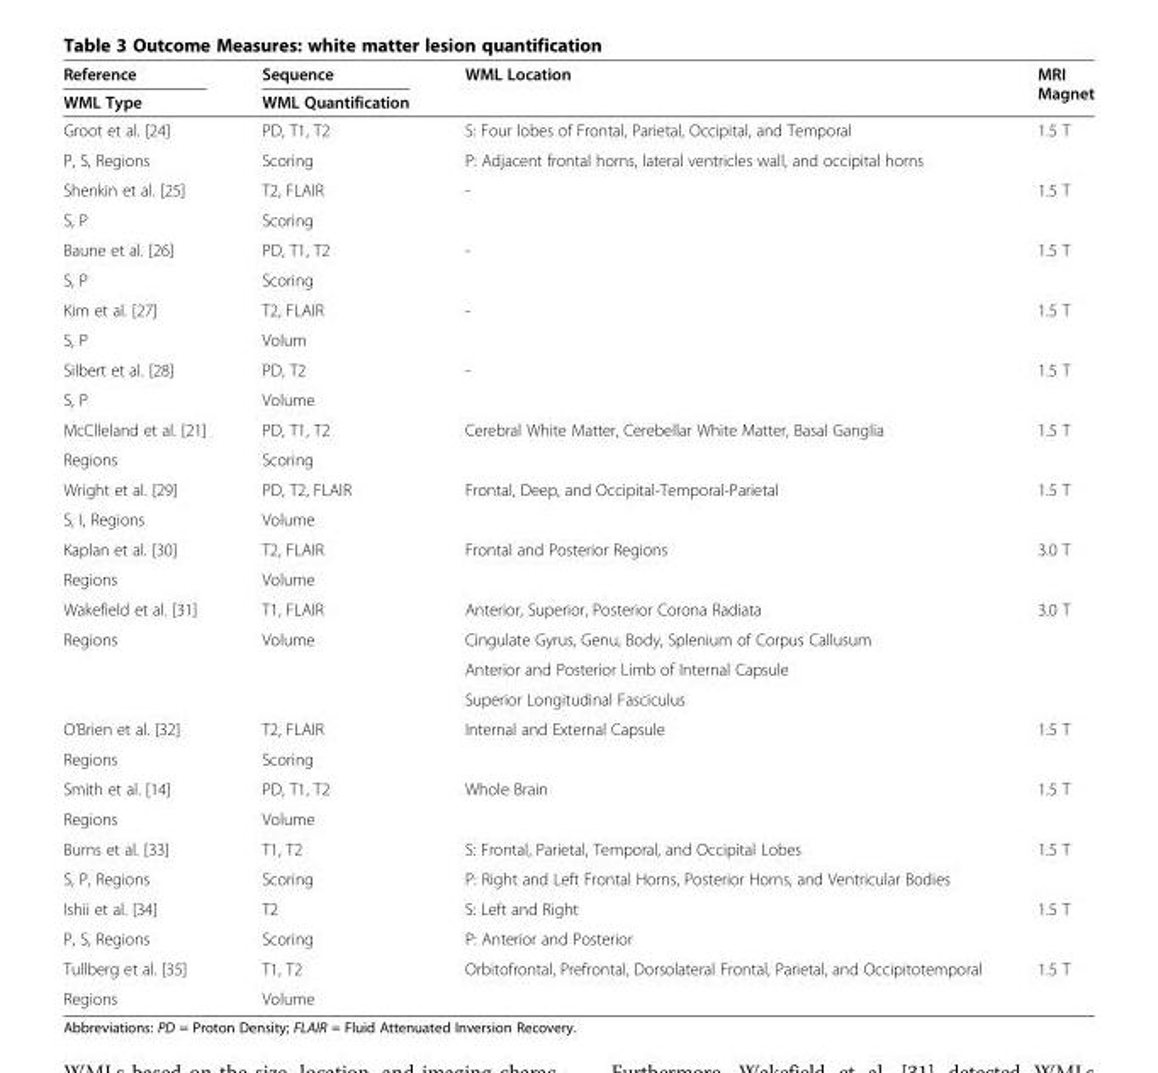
<table><thead><tr><td rowspan="2">Reference WML Type</td><td rowspan="2">Sequence WML Quantification</td><td rowspan="2">WML Location</td><td rowspan="2">MRI Magnet</td></tr><tr></tr></thead><tbody><tr><td>Groot et al. [24]</td><td>PD, T1, T2</td><td>S: Four lobes of Frontal, Parietal, Occipital, and Temporal</td><td rowspan="2">1.5 T</td></tr><tr><td>P, S, Regions</td><td>Scoring</td><td>P: Adjacent frontal horns, lateral ventricles wall, and occipital horns</td></tr><tr><td>Shenkin et al. [25]</td><td>T2, FLAIR</td><td rowspan="2">-</td><td rowspan="2">1.5 T</td></tr><tr><td>S, P</td><td>Scoring</td></tr><tr><td>Baune et al. [26]</td><td>PD, T1, T2</td><td rowspan="2">-</td><td rowspan="2">1.5 T</td></tr><tr><td>S, P</td><td>Scoring</td></tr><tr><td>Kim et al. [27]</td><td>T2, FLAIR</td><td rowspan="2">-</td><td rowspan="2">1.5 T</td></tr><tr><td>S, P</td><td>Volum</td></tr><tr><td>Silbert et al. [28]</td><td>PD, T2</td><td rowspan="2">-</td><td rowspan="2">1.5 T</td></tr><tr><td>S, P</td><td>Volume</td></tr><tr><td>McClleland et al. [21]</td><td>PD, T1, T2</td><td rowspan="2">Cerebral White Matter, Cerebellar White Matter, Basal Ganglia</td><td rowspan="2">1.5 T</td></tr><tr><td>Regions</td><td>Scoring</td></tr><tr><td>Wright et al. [29]</td><td>PD, T2, FLAIR</td><td rowspan="2">Frontal, Deep, and Occipital-Temporal-Parietal</td><td rowspan="2">1.5 T</td></tr><tr><td>S, I, Regions</td><td>Volume</td></tr><tr><td>Kaplan et al. [30]</td><td>T2, FLAIR</td><td rowspan="2">Frontal and Posterior Regions</td><td rowspan="2">3.0 T</td></tr><tr><td>Regions</td><td>Volume</td></tr><tr><td>Wakefield et al. [31]</td><td>T1, FLAIR</td><td>Anterior, Superior, Posterior Corona Radiata</td><td rowspan="4">3.0 T</td></tr><tr><td rowspan="3">Regions</td><td rowspan="3">Volume</td><td>Cingulate Gyrus, Genu, Body, Splenium of Corpus Callusum</td></tr><tr><td>Anterior and Posterior Limb of Internal Capsule</td></tr><tr><td>Superior Longitudinal Fasciculus</td></tr><tr><td>O’Brien et al. [32]</td><td>T2, FLAIR</td><td rowspan="2">Internal and External Capsule</td><td rowspan="2">1.5 T</td></tr><tr><td>Regions</td><td>Scoring</td></tr><tr><td>Smith et al. [14]</td><td>PD, T1, T2</td><td rowspan="2">Whole Brain</td><td rowspan="2">1.5 T</td></tr><tr><td>Regions</td><td>Volume</td></tr><tr><td>Burns et al. [33]</td><td>T1, T2</td><td>S: Frontal, Parietal, Temporal, and Occipital Lobes</td><td rowspan="2">1.5 T</td></tr><tr><td>S, P, Regions</td><td>Scoring</td><td>P: Right and Left Frontal Horns, Posterior Horns, and Ventricular Bodies</td></tr><tr><td>Ishii et al. [34]</td><td>T2</td><td>S: Left and Right</td><td rowspan="2">1.5 T</td></tr><tr><td>P, S, Regions</td><td>Scoring</td><td>P: Anterior and Posterior</td></tr><tr><td>Tullberg et al. [35]</td><td>T1, T2</td><td>Orbitofrontal, Prefrontal, Dorsolateral Frontal, Parietal, and Occipitotemporal</td><td>1.5 T</td></tr><tr><td>Regions</td><td>Volume</td><td></td><td></td></tr></tbody></table>